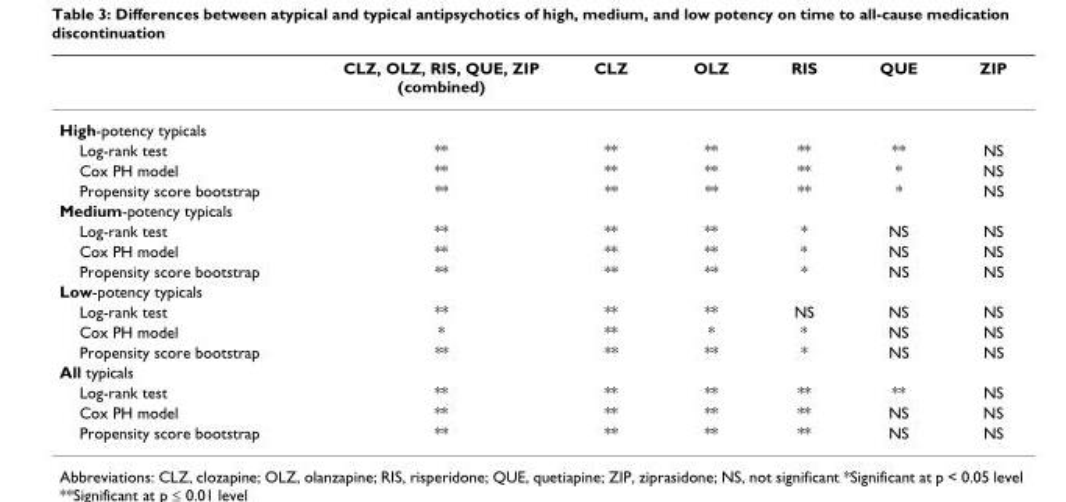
<table><thead><tr><td></td><td>CLZ, OLZ, RIS, QUE, ZIP (combined)</td><td>CLZ</td><td>OLZ</td><td>RIS</td><td>QUE</td><td>ZIP</td></tr></thead><tbody><tr><td colspan="7">High-potency typicals</td></tr><tr><td>Log-rank test</td><td>**</td><td>**</td><td>**</td><td>**</td><td>**</td><td>NS</td></tr><tr><td>Cox PH model</td><td>**</td><td>**</td><td>**</td><td>**</td><td>*</td><td>NS</td></tr><tr><td>Propensity score bootstrap</td><td>**</td><td>**</td><td>**</td><td>**</td><td>*</td><td>NS</td></tr><tr><td colspan="7">Medium-potency typicals</td></tr><tr><td>Log-rank test</td><td>**</td><td>**</td><td>**</td><td>*</td><td>NS</td><td>NS</td></tr><tr><td>Cox PH model</td><td>**</td><td>**</td><td>**</td><td>*</td><td>NS</td><td>NS</td></tr><tr><td>Propensity score bootstrap</td><td>**</td><td>**</td><td>**</td><td>*</td><td>NS</td><td>NS</td></tr><tr><td colspan="7">Low-potency typicals</td></tr><tr><td>Log-rank test</td><td>**</td><td>**</td><td>**</td><td>NS</td><td>NS</td><td>NS</td></tr><tr><td>Cox PH model</td><td>*</td><td>**</td><td>*</td><td>*</td><td>NS</td><td>NS</td></tr><tr><td>Propensity score bootstrap</td><td>**</td><td>**</td><td>**</td><td>*</td><td>NS</td><td>NS</td></tr><tr><td colspan="7">All typicals</td></tr><tr><td>Log-rank test</td><td>**</td><td>**</td><td>**</td><td>**</td><td>**</td><td>NS</td></tr><tr><td>Cox PH model</td><td>**</td><td>**</td><td>**</td><td>**</td><td>NS</td><td>NS</td></tr><tr><td>Propensity score bootstrap</td><td>**</td><td>**</td><td>**</td><td>**</td><td>NS</td><td>NS</td></tr></tbody></table>